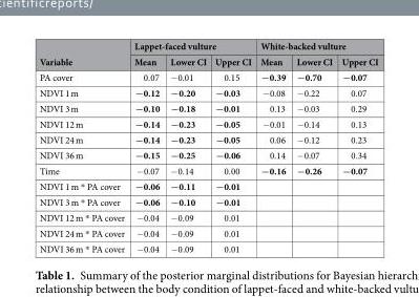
<table><thead><tr><td rowspan="2">Variable</td><td colspan="3">Lappet-faced vulture</td><td colspan="3">White-backed vulture</td></tr><tr><td>Mean</td><td>Lower CI</td><td>Upper CI</td><td>Mean</td><td>Lower CI</td><td>Upper CI</td></tr></thead><tbody><tr><td>PA cover</td><td>0.07</td><td>−0.01</td><td>0.15</td><td>−0.39</td><td>−0.70</td><td>−0.07</td></tr><tr><td>NDVI 1 m</td><td>−0.12</td><td>−0.20</td><td>−0.03</td><td>−0.08</td><td>−0.22</td><td>0.07</td></tr><tr><td>NDVI 3 m</td><td>−0.10</td><td>−0.18</td><td>−0.01</td><td>0.13</td><td>−0.03</td><td>0.29</td></tr><tr><td>NDVI 12 m</td><td>−0.14</td><td>−0.23</td><td>−0.05</td><td>−0.01</td><td>−0.14</td><td>0.13</td></tr><tr><td>NDVI 24 m</td><td>−0.14</td><td>−0.23</td><td>−0.05</td><td>0.06</td><td>−0.12</td><td>0.23</td></tr><tr><td>NDVI 36 m</td><td>−0.15</td><td>−0.25</td><td>−0.06</td><td>0.14</td><td>−0.07</td><td>0.34</td></tr><tr><td>Time</td><td>−0.07</td><td>−0.14</td><td>0.00</td><td>−0.16</td><td>−0.26</td><td>−0.07</td></tr><tr><td>NDVI 1 m * PA cover</td><td>−0.06</td><td>−0.11</td><td>−0.01</td><td></td><td></td><td></td></tr><tr><td>NDVI 3 m * PA cover</td><td>−0.06</td><td>−0.10</td><td>−0.01</td><td></td><td></td><td></td></tr><tr><td>NDVI 12 m * PA cover</td><td>−0.04</td><td>−0.09</td><td>0.01</td><td></td><td></td><td></td></tr><tr><td>NDVI 24 m * PA cover</td><td>−0.04</td><td>−0.09</td><td>0.01</td><td></td><td></td><td></td></tr><tr><td>NDVI 36 m * PA cover</td><td>−0.04</td><td>−0.09</td><td>0.01</td><td></td><td></td><td></td></tr></tbody></table>